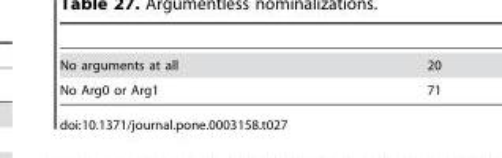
<table><tbody><tr><td>No arguments at all</td><td>20</td></tr><tr><td>No Arg0 or Arg1</td><td>71</td></tr></tbody></table>